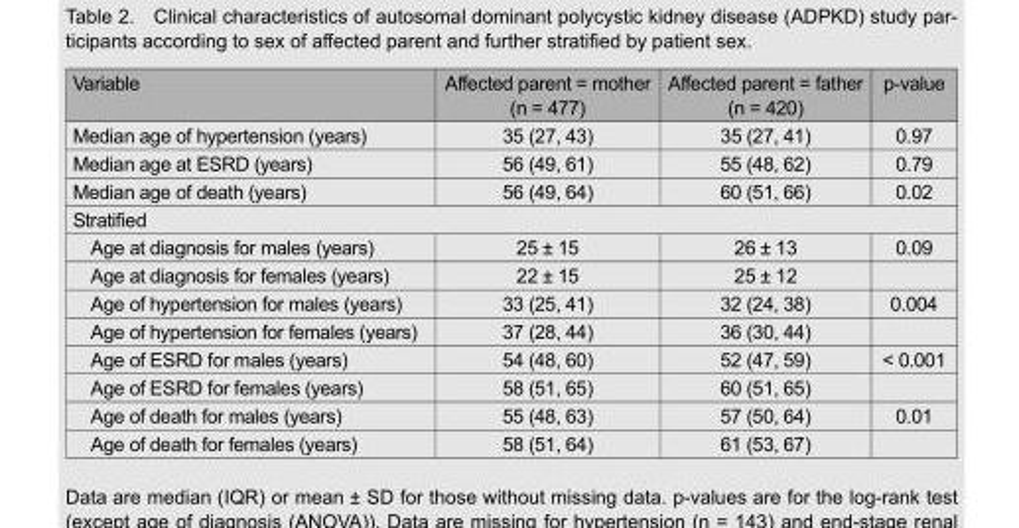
<table><thead><tr><td>Variable</td><td>Affected parent = mother (n = 477)</td><td>Affected parent = father (n = 420)</td><td>p-value</td></tr></thead><tbody><tr><td>Median age of hypertension (years)</td><td>35 (27, 43)</td><td>35 (27, 41)</td><td>0.97</td></tr><tr><td>Median age at ESRD (years)</td><td>56 (49, 61)</td><td>55 (48, 62)</td><td>0.79</td></tr><tr><td>Median age of death (years)</td><td>56 (49, 64)</td><td>60 (51, 66)</td><td>0.02</td></tr><tr><td colspan="4">Stratified</td></tr><tr><td>Age at diagnosis for males (years)</td><td>25 ± 15</td><td>26 ± 13</td><td>0.09</td></tr><tr><td>Age at diagnosis for females (years)</td><td>22 ± 15</td><td>25 ± 12</td><td></td></tr><tr><td>Age of hypertension for males (years)</td><td>33 (25, 41)</td><td>32 (24, 38)</td><td>0.004</td></tr><tr><td>Age of hypertension for females (years)</td><td>37 (28, 44)</td><td>36 (30, 44)</td><td></td></tr><tr><td>Age of ESRD for males (years)</td><td>54 (48, 60)</td><td>52 (47, 59)</td><td>&lt; 0.001</td></tr><tr><td>Age of ESRD for females (years)</td><td>58 (51, 65)</td><td>60 (51, 65)</td><td></td></tr><tr><td>Age of death for males (years)</td><td>55 (48, 63)</td><td>57 (50, 64)</td><td>0.01</td></tr><tr><td>Age of death for females (years)</td><td>58 (51, 64)</td><td>61 (53, 67)</td><td></td></tr></tbody></table>